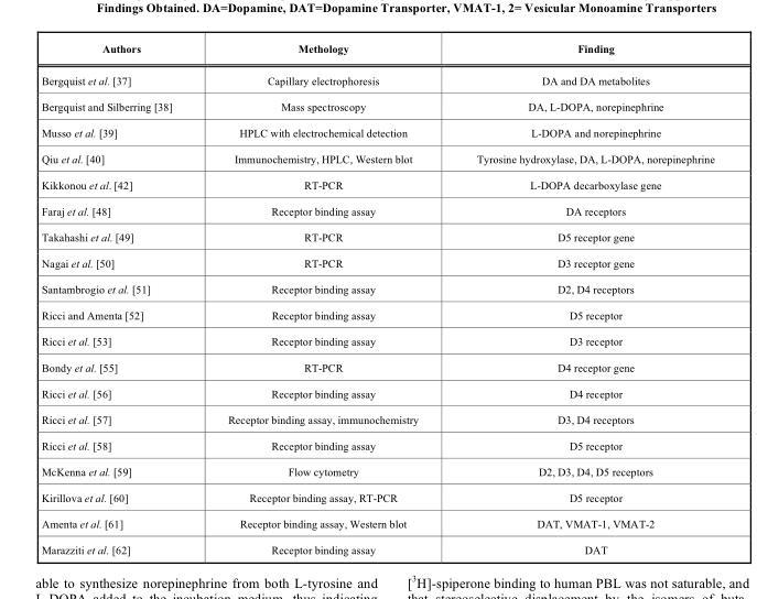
<table><thead><tr><td>Authors</td><td>Methology</td><td>Finding</td></tr></thead><tbody><tr><td>Bergquist et al. [37]</td><td>Capillary electrophoresis</td><td>DA and DA metabolites</td></tr><tr><td>Bergquist and Silberring [38]</td><td>Mass spectroscopy</td><td>DA, L-DOPA, norepinephrine</td></tr><tr><td>Musso et al. [39]</td><td>HPLC with electrochemical detection</td><td>L-DOPA and norepinephrine</td></tr><tr><td>Qiu et al. [40]</td><td>Immunochemistry, HPLC, Western blot</td><td>Tyrosine hydroxylase, DA, L-DOPA, norepinephrine</td></tr><tr><td>Kikkonou et al. [42]</td><td>RT-PCR</td><td>L-DOPA decarboxylase gene</td></tr><tr><td>Faraj et al. [48]</td><td>Receptor binding assay</td><td>DA receptors</td></tr><tr><td>Takahashi et al. [49]</td><td>RT-PCR</td><td>D5 receptor gene</td></tr><tr><td>Nagai et al. [50]</td><td>RT-PCR</td><td>D3 receptor gene</td></tr><tr><td>Santambrogio et al. [51]</td><td>Receptor binding assay</td><td>D2, D4 receptors</td></tr><tr><td>Ricci and Amenta [52]</td><td>Receptor binding assay</td><td>D5 receptor</td></tr><tr><td>Ricci et al. [53]</td><td>Receptor binding assay</td><td>D3 receptor</td></tr><tr><td>Bondy et al. [55]</td><td>RT-PCR</td><td>D4 receptor gene</td></tr><tr><td>Ricci et al. [56]</td><td>Receptor binding assay</td><td>D4 receptor</td></tr><tr><td>Ricci et al. [57]</td><td>Receptor binding assay, immunochemistry</td><td>D3, D4 receptors</td></tr><tr><td>Ricci et al. [58]</td><td>Receptor binding assay</td><td>D5 receptor</td></tr><tr><td>McKenna et al. [59]</td><td>Flow cytometry</td><td>D2, D3, D4, D5 receptors</td></tr><tr><td>Kirillova et al. [60]</td><td>Receptor binding assay, RT-PCR</td><td>D5 receptor</td></tr><tr><td>Amenta et al. [61]</td><td>Receptor binding assay, Western blot</td><td>DAT, VMAT-1, VMAT-2</td></tr><tr><td>Marazziti et al. [62]</td><td>Receptor binding assay</td><td>DAT</td></tr></tbody></table>